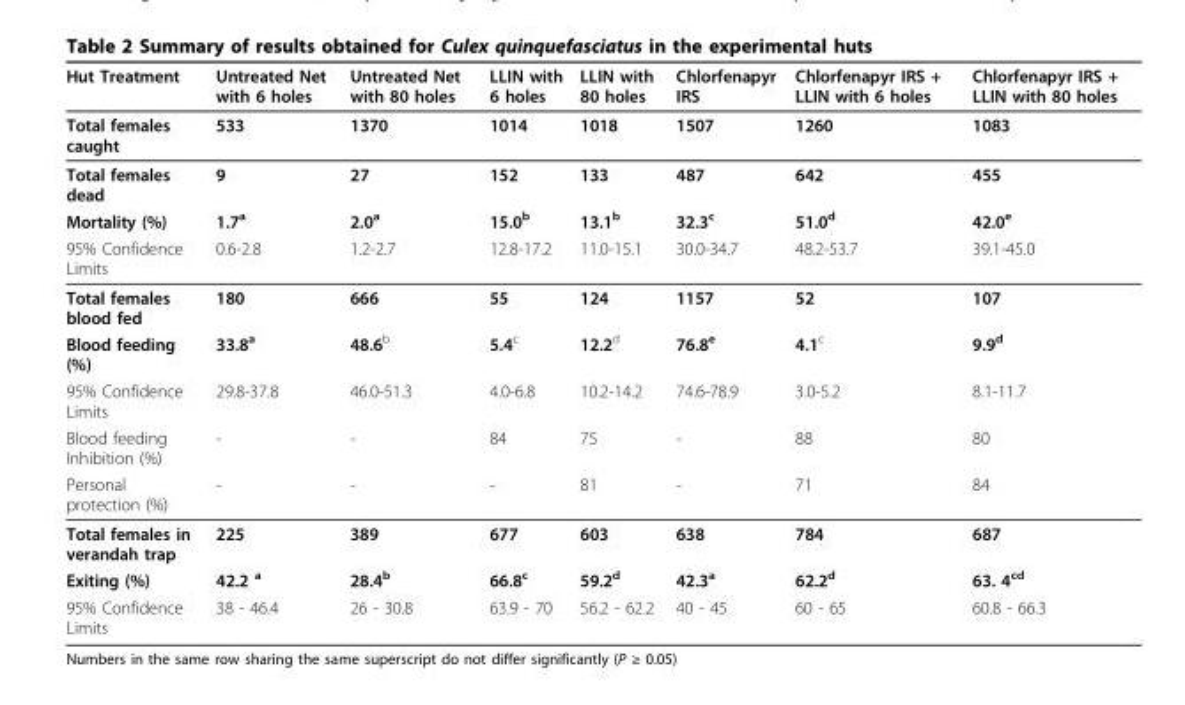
<table><thead><tr><td>Hut Treatment</td><td>Untreated Net with 6 holes</td><td>Untreated Net with 80 holes</td><td>LLIN with 6 holes</td><td>LLIN with 80 holes</td><td>Chlorfenapyr IRS</td><td>Chlorfenapyr IRS + LLIN with 6 holes</td><td>Chlorfenapyr IRS + LLIN with 80 holes</td></tr></thead><tbody><tr><td>Total females caught</td><td>533</td><td>1370</td><td>1014</td><td>1018</td><td>1507</td><td>1260</td><td>1083</td></tr><tr><td>Total females dead</td><td>9</td><td>27</td><td>152</td><td>133</td><td>487</td><td>642</td><td>455</td></tr><tr><td>Mortality (%)</td><td>1.7<sup>a</sup></td><td>2.0<sup>a</sup></td><td>15.0<sup>b</sup></td><td>13.1<sup>b</sup></td><td>32.3<sup>c</sup></td><td>51.0<sup>d</sup></td><td>42.0<sup>e</sup></td></tr><tr><td>95% Confidence Limits</td><td>0.6-2.8</td><td>1.2-2.7</td><td>12.8-17.2</td><td>11.0-15.1</td><td>30.0-34.7</td><td>48.2-53.7</td><td>39.1-45.0</td></tr><tr><td>Total females blood fed</td><td>180</td><td>666</td><td>55</td><td>124</td><td>1157</td><td>52</td><td>107</td></tr><tr><td>Blood feeding (%)</td><td>33.8<sup>a</sup></td><td>48.6<sup>b</sup></td><td>5.4<sup>c</sup></td><td>12.2<sup>d</sup></td><td>76.8<sup>e</sup></td><td>4.1<sup>c</sup></td><td>9.9<sup>d</sup></td></tr><tr><td>95% Confidence Limits</td><td>29.8-37.8</td><td>46.0-51.3</td><td>4.0-6.8</td><td>10.2-14.2</td><td>74.6-78.9</td><td>3.0-5.2</td><td>8.1-11.7</td></tr><tr><td>Blood feeding Inhibition (%)</td><td>-</td><td>-</td><td>84</td><td>75</td><td>-</td><td>88</td><td>80</td></tr><tr><td>Personal protection (%)</td><td>-</td><td>-</td><td>-</td><td>81</td><td>-</td><td>71</td><td>84</td></tr><tr><td>Total females in verandah trap</td><td>225</td><td>389</td><td>677</td><td>603</td><td>638</td><td>784</td><td>687</td></tr><tr><td>Exiting (%)</td><td>42.2 <sup>a</sup></td><td>28.4<sup>b</sup></td><td>66.8<sup>c</sup></td><td>59.2<sup>d</sup></td><td>42.3<sup>a</sup></td><td>62.2<sup>d</sup></td><td>63. 4<sup>cd</sup></td></tr><tr><td>95% Confidence Limits</td><td>38 - 46.4</td><td>26 - 30.8</td><td>63.9 - 70</td><td>56.2 - 62.2</td><td>40 - 45</td><td>60 - 65</td><td>60.8 - 66.3</td></tr></tbody></table>